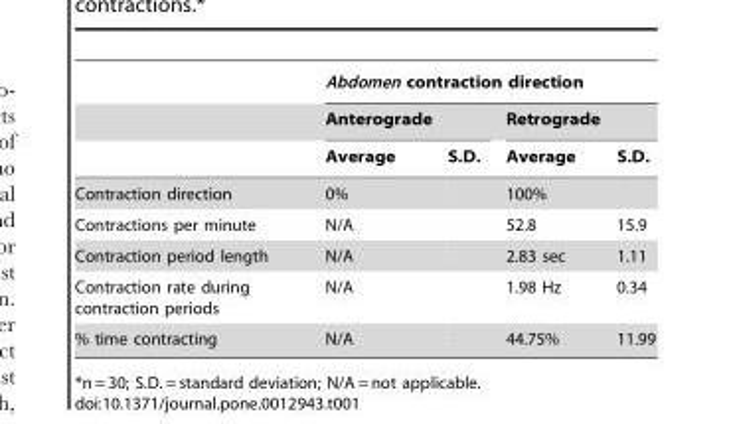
<table><thead><tr><td rowspan="3"></td><td colspan="4">Abdomen contraction direction</td></tr><tr><td colspan="2">Anterograde</td><td colspan="2">Retrograde</td></tr><tr><td>Average</td><td>S.D.</td><td>Average</td><td>S.D.</td></tr></thead><tbody><tr><td>Contraction direction</td><td>0%</td><td></td><td>100%</td><td></td></tr><tr><td>Contractions per minute</td><td>N/A</td><td></td><td>52.8</td><td>15.9</td></tr><tr><td>Contraction period length</td><td>N/A</td><td></td><td>2.83 sec</td><td>1.11</td></tr><tr><td>Contraction rate during contraction periods</td><td>N/A</td><td></td><td>1.98 Hz</td><td>0.34</td></tr><tr><td>% time contracting</td><td>N/A</td><td></td><td>44.75%</td><td>11.99</td></tr></tbody></table>